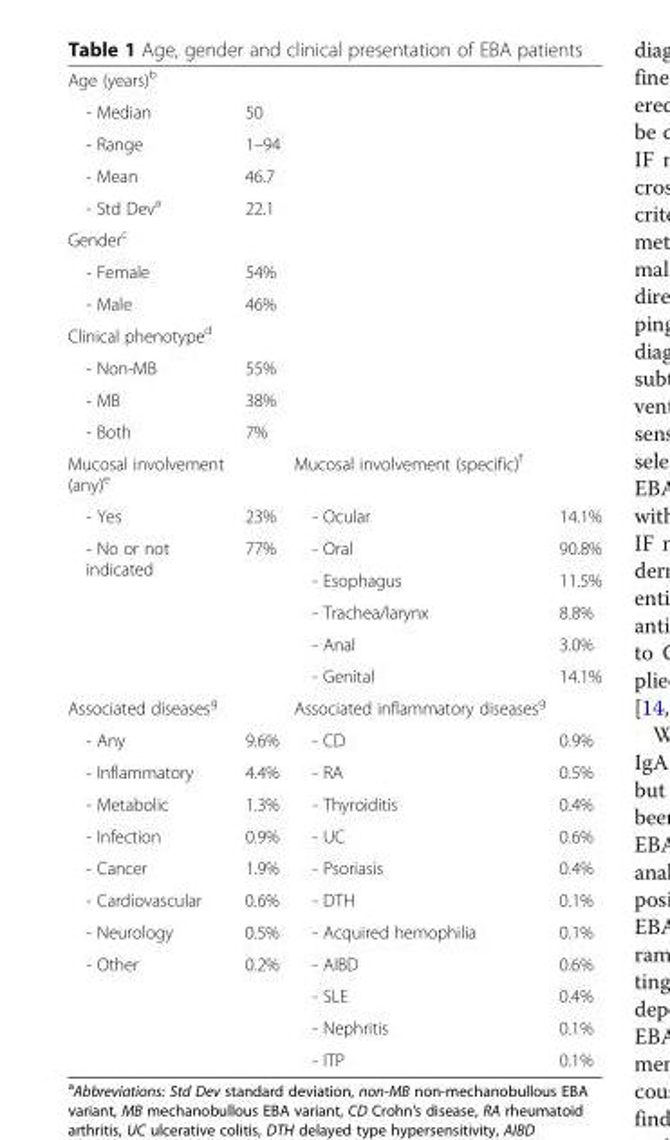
<table><tbody><tr><td colspan="4">Age (years)<sup>b</sup></td></tr><tr><td>- Median</td><td>50</td><td></td><td></td></tr><tr><td>- Range</td><td>1–94</td><td></td><td></td></tr><tr><td>- Mean</td><td>46.7</td><td></td><td></td></tr><tr><td>- Std Dev<sup>a</sup></td><td>22.1</td><td></td><td></td></tr><tr><td colspan="4">Gender<sup>c</sup></td></tr><tr><td>- Female</td><td>54%</td><td></td><td></td></tr><tr><td>- Male</td><td>46%</td><td></td><td></td></tr><tr><td colspan="4">Clinical phenotype<sup>d</sup></td></tr><tr><td>- Non-MB</td><td>55%</td><td></td><td></td></tr><tr><td>- MB</td><td>38%</td><td></td><td></td></tr><tr><td>- Both</td><td>7%</td><td></td><td></td></tr><tr><td>Mucosal involvement (any)<sup>e</sup></td><td></td><td>Mucosal involvement (specific)<sup>f</sup></td><td></td></tr><tr><td>- Yes</td><td>23%</td><td>- Ocular</td><td>14.1%</td></tr><tr><td rowspan="5">- No or not indicated</td><td rowspan="5">77%</td><td>- Oral</td><td>90.8%</td></tr><tr><td>- Esophagus</td><td>11.5%</td></tr><tr><td>- Trachea/larynx</td><td>8.8%</td></tr><tr><td>- Anal</td><td>3.0%</td></tr><tr><td>- Genital</td><td>14.1%</td></tr><tr><td>Associated diseases<sup>g</sup></td><td></td><td>Associated inflammatory diseases<sup>g</sup></td><td></td></tr><tr><td>- Any</td><td>9.6%</td><td>- CD</td><td>0.9%</td></tr><tr><td>- Inflammatory</td><td>4.4%</td><td>- RA</td><td>0.5%</td></tr><tr><td>- Metabolic</td><td>1.3%</td><td>- Thyroiditis</td><td>0.4%</td></tr><tr><td>- Infection</td><td>0.9%</td><td>- UC</td><td>0.6%</td></tr><tr><td>- Cancer</td><td>1.9%</td><td>- Psoriasis</td><td>0.4%</td></tr><tr><td>- Cardiovascular</td><td>0.6%</td><td>- DTH</td><td>0.1%</td></tr><tr><td>- Neurology</td><td>0.5%</td><td>- Acquired hemophilia</td><td>0.1%</td></tr><tr><td rowspan="4">- Other</td><td rowspan="4">0.2%</td><td>- AIBD</td><td>0.6%</td></tr><tr><td>- SLE</td><td>0.4%</td></tr><tr><td>- Nephritis</td><td>0.1%</td></tr><tr><td>- ITP</td><td>0.1%</td></tr></tbody></table>